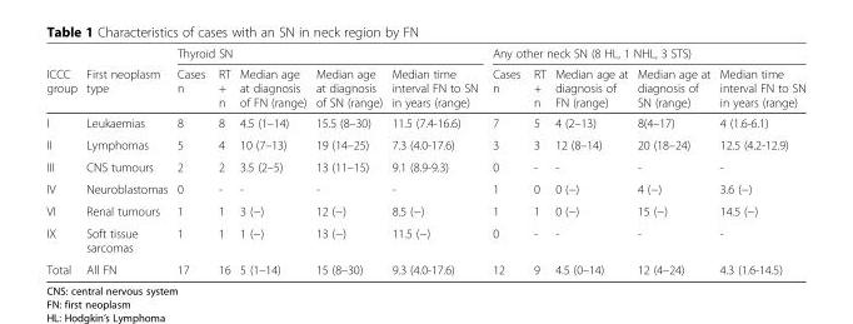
<table><thead><tr><td rowspan="2">ICCC group</td><td rowspan="2">First neoplasm type</td><td colspan="5">Thyroid SN</td><td colspan="5">Any other neck SN (8 HL, 1 NHL, 3 STS)</td></tr><tr><td>Cases n</td><td>RT + n</td><td>Median age at diagnosis of FN (range)</td><td>Median age at diagnosis of SN (range)</td><td>Median time interval FN to SN in years (range)</td><td>Cases n</td><td>RT + n</td><td>Median age at diagnosis of FN (range)</td><td>Median age at diagnosis of SN (range)</td><td>Median time interval FN to SN in years (range)</td></tr></thead><tbody><tr><td>I</td><td>Leukaemias</td><td>8</td><td>8</td><td>4.5 (1–14)</td><td>15.5 (8–30)</td><td>11.5 (7.4-16.6)</td><td>7</td><td>5</td><td>4 (2–13)</td><td>8(4–17)</td><td>4 (1.6-6.1)</td></tr><tr><td>II</td><td>Lymphomas</td><td>5</td><td>4</td><td>10 (7–13)</td><td>19 (14–25)</td><td>7.3 (4.0-17.6)</td><td>3</td><td>3</td><td>12 (8–14)</td><td>20 (18–24)</td><td>12.5 (4.2-12.9)</td></tr><tr><td>III</td><td>CNS tumours</td><td>2</td><td>2</td><td>3.5 (2–5)</td><td>13 (11–15)</td><td>9.1 (8.9-9.3)</td><td>0</td><td>-</td><td>-</td><td>-</td><td>-</td></tr><tr><td>IV</td><td>Neuroblastomas</td><td>0</td><td>-</td><td>-</td><td>-</td><td>-</td><td>1</td><td>0</td><td>0 (−)</td><td>4 (−)</td><td>3.6 (−)</td></tr><tr><td>VI</td><td>Renal tumours</td><td>1</td><td>1</td><td>3 (−)</td><td>12 (−)</td><td>8.5 (−)</td><td>1</td><td>1</td><td>0 (−)</td><td>15 (−)</td><td>14.5 (−)</td></tr><tr><td>IX</td><td>Soft tissue sarcomas</td><td>1</td><td>1</td><td>1 (−)</td><td>13 (−)</td><td>11.5 (−)</td><td>0</td><td>-</td><td>-</td><td>-</td><td>-</td></tr><tr><td>Total</td><td>All FN</td><td>17</td><td>16</td><td>5 (1–14)</td><td>15 (8–30)</td><td>9.3 (4.0-17.6)</td><td>12</td><td>9</td><td>4.5 (0–14)</td><td>12 (4–24)</td><td>4.3 (1.6-14.5)</td></tr></tbody></table>